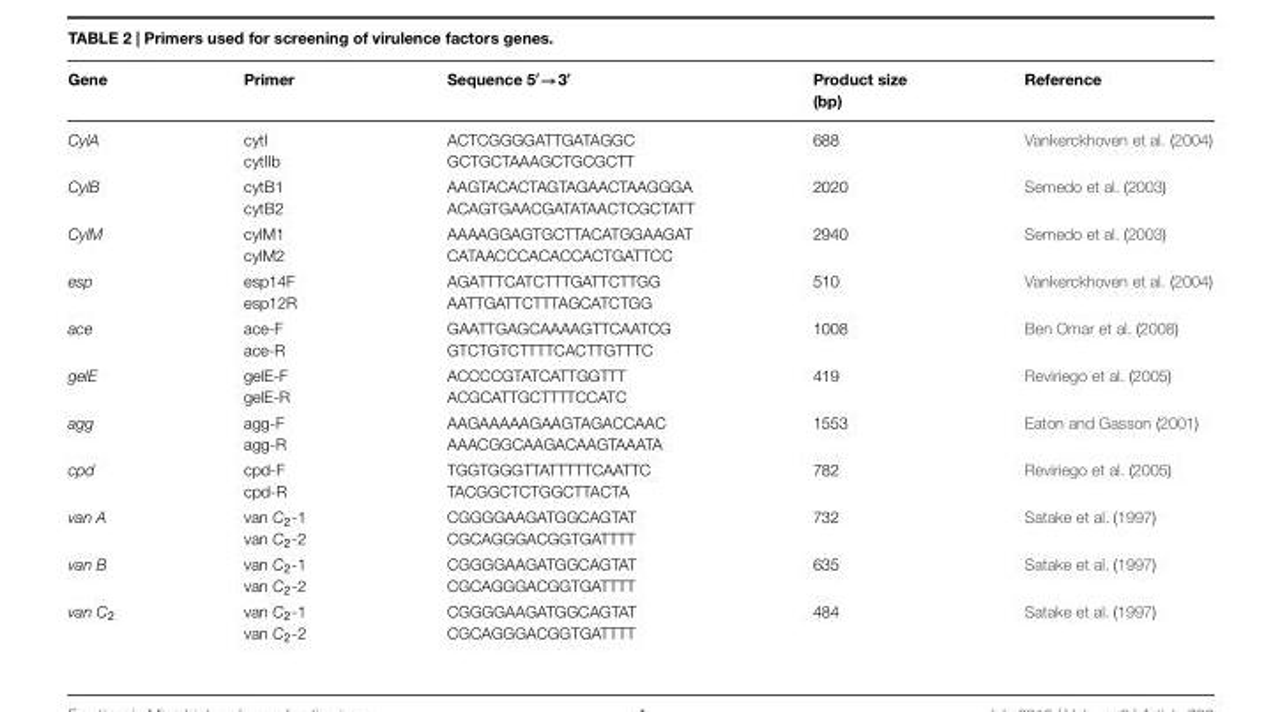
<table><thead><tr><td>Gene</td><td>Primer</td><td>Sequence 5′→3′</td><td>Product size (bp)</td><td>Reference</td></tr></thead><tbody><tr><td>CylA</td><td>cytI cytIIb</td><td>ACTCGGGGATTGATAGGC GCTGCTAAAGCTGCGCTT</td><td>688</td><td>Vankerckhoven et al. (2004)</td></tr><tr><td>CylB</td><td>cytB1 cytB2</td><td>AAGTACACTAGTAGAACTAAGGGA ACAGTGAACGATATAACTCGCTATT</td><td>2020</td><td>Semedo et al. (2003)</td></tr><tr><td>CylM</td><td>cylM1 cylM2</td><td>AAAAGGAGTGCTTACATGGAAGAT CATAACCCACACCACTGATTCC</td><td>2940</td><td>Semedo et al. (2003)</td></tr><tr><td>esp</td><td>esp14F esp12R</td><td>AGATTTCATCTTTGATTCTTGG AATTGATTCTTTAGCATCTGG</td><td>510</td><td>Vankerckhoven et al. (2004)</td></tr><tr><td>ace</td><td>ace-F ace-R</td><td>GAATTGAGCAAAAGTTCAATCG GTCTGTCTTTTCACTTGTTTC</td><td>1008</td><td>Ben Omar et al. (2008)</td></tr><tr><td>gelE</td><td>gelE-F gelE-R</td><td>ACCCCGTATCATTGGTTT ACGCATTGCTTTTCCATC</td><td>419</td><td>Reviriego et al. (2005)</td></tr><tr><td>agg</td><td>agg-F agg-R</td><td>AAGAAAAAGAAGTAGACCAAC AAACGGCAAGACAAGTAAATA</td><td>1553</td><td>Eaton and Gasson (2001)</td></tr><tr><td>cpd</td><td>cpd-F cpd-R</td><td>TGGTGGGTTATTTTTCAATTC TACGGCTCTGGCTTACTA</td><td>782</td><td>Reviriego et al. (2005)</td></tr><tr><td>van A</td><td>van C<sub>2</sub>-1 van C<sub>2</sub>-2</td><td>CGGGGAAGATGGCAGTAT CGCAGGGACGGTGATTTT</td><td>732</td><td>Satake et al. (1997)</td></tr><tr><td>van B</td><td>van C<sub>2</sub>-1 van C<sub>2</sub>-2</td><td>CGGGGAAGATGGCAGTAT CGCAGGGACGGTGATTTT</td><td>635</td><td>Satake et al. (1997)</td></tr><tr><td>van C<sub>2</sub></td><td>van C<sub>2</sub>-1 van C<sub>2</sub>-2</td><td>CGGGGAAGATGGCAGTAT CGCAGGGACGGTGATTTT</td><td>484</td><td>Satake et al. (1997)</td></tr></tbody></table>